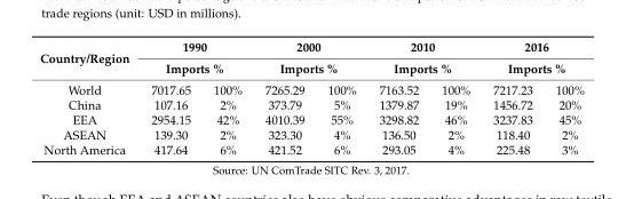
<table><thead><tr><td rowspan="3">Country/Region World</td><td rowspan="2" colspan="2">1990 Imports %</td><td rowspan="2" colspan="2">2000 Imports %</td><td rowspan="2" colspan="2">2010 Imports %</td><td rowspan="2" colspan="2">2016 Imports %</td></tr><tr></tr><tr><td>7017.65</td><td>100%</td><td>7265.29</td><td>100%</td><td>7163.52</td><td>100%</td><td>7217.23</td><td>100%</td></tr></thead><tbody><tr><td>China</td><td>107.16</td><td>2%</td><td>373.79</td><td>5%</td><td>1379.87</td><td>19%</td><td>1456.72</td><td>20%</td></tr><tr><td>EEA</td><td>2954.15</td><td>42%</td><td>4010.39</td><td>55%</td><td>3298.82</td><td>46%</td><td>3237.83</td><td>45%</td></tr><tr><td>ASEAN</td><td>139.30</td><td>2%</td><td>323.30</td><td>4%</td><td>136.50</td><td>2%</td><td>118.40</td><td>2%</td></tr><tr><td>North America</td><td>417.64</td><td>6%</td><td>421.52</td><td>6%</td><td>293.05</td><td>4%</td><td>225.48</td><td>3%</td></tr></tbody></table>